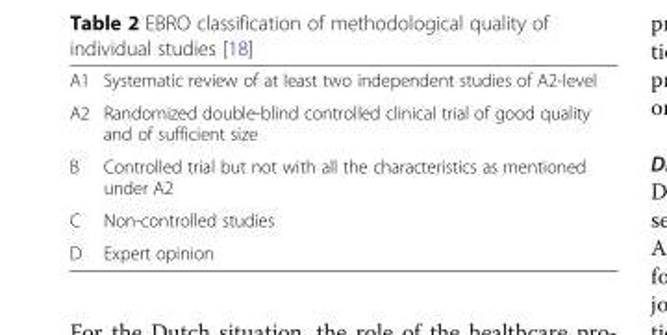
<table><tbody><tr><td>A1</td><td>Systematic review of at least two independent studies of A2-level</td></tr><tr><td>A2</td><td>Randomized double-blind controlled clinical trial of good quality and of sufficient size</td></tr><tr><td>B</td><td>Controlled trial but not with all the characteristics as mentioned under A2</td></tr><tr><td>C</td><td>Non-controlled studies</td></tr><tr><td>D</td><td>Expert opinion</td></tr></tbody></table>